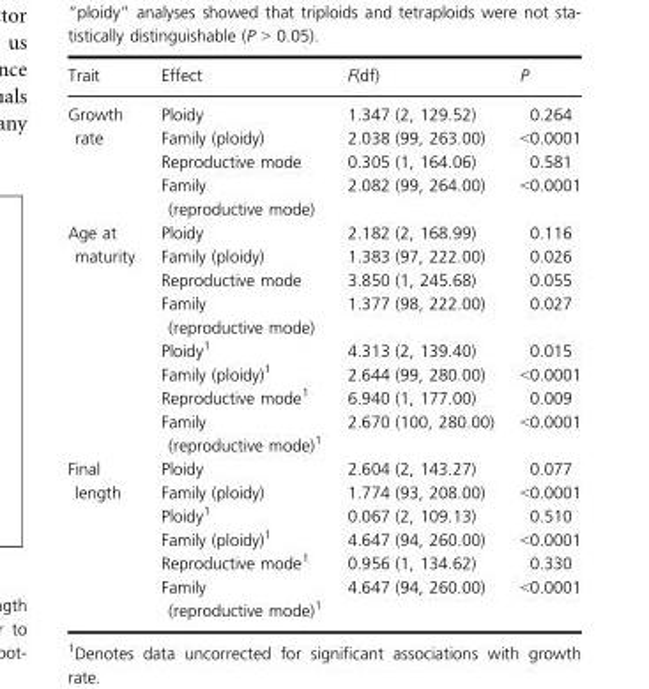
<table><thead><tr><td>Trait</td><td>Effect</td><td>F(df)</td><td>P</td></tr></thead><tbody><tr><td rowspan="4">Growth rate</td><td>Ploidy</td><td>1.347 (2, 129.52)</td><td>0.264</td></tr><tr><td>Family (ploidy)</td><td>2.038 (99, 263.00)</td><td>&lt;0.0001</td></tr><tr><td>Reproductive mode</td><td>0.305 (1, 164.06)</td><td>0.581</td></tr><tr><td>Family (reproductive mode)</td><td>2.082 (99, 264.00)</td><td>&lt;0.0001</td></tr><tr><td rowspan="8">Age at maturity</td><td>Ploidy</td><td>2.182 (2, 168.99)</td><td>0.116</td></tr><tr><td>Family (ploidy)</td><td>1.383 (97, 222.00)</td><td>0.026</td></tr><tr><td>Reproductive mode</td><td>3.850 (1, 245.68)</td><td>0.055</td></tr><tr><td>Family (reproductive mode)</td><td>1.377 (98, 222.00)</td><td>0.027</td></tr><tr><td>Ploidy1</td><td>4.313 (2, 139.40)</td><td>0.015</td></tr><tr><td>Family (ploidy)1</td><td>2.644 (99, 280.00)</td><td>&lt;0.0001</td></tr><tr><td>Reproductive mode1</td><td>6.940 (1, 177.00)</td><td>0.009</td></tr><tr><td>Family (reproductive mode)1</td><td>2.670 (100, 280.00)</td><td>&lt;0.0001</td></tr><tr><td rowspan="6">Final length</td><td>Ploidy</td><td>2.604 (2, 143.27)</td><td>0.077</td></tr><tr><td>Family (ploidy)</td><td>1.774 (93, 208.00)</td><td>&lt;0.0001</td></tr><tr><td>Ploidy1</td><td>0.067 (2, 109.13)</td><td>0.510</td></tr><tr><td>Family (ploidy)1</td><td>4.647 (94, 260.00)</td><td>&lt;0.0001</td></tr><tr><td>Reproductive mode1</td><td>0.956 (1, 134.62)</td><td>0.330</td></tr><tr><td>Family (reproductive mode)1</td><td>4.647 (94, 260.00)</td><td>&lt;0.0001</td></tr></tbody></table>